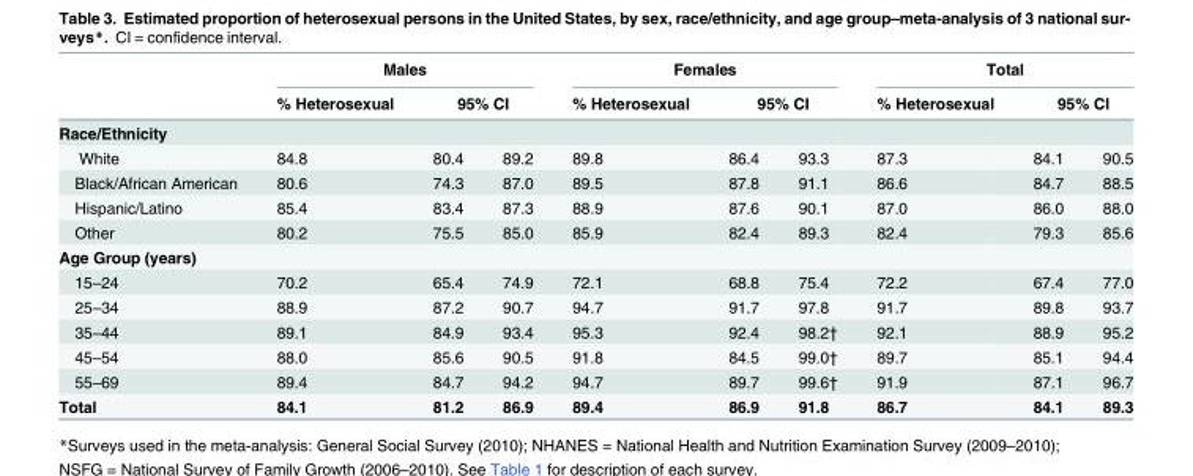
<table><thead><tr><td rowspan="4">Race/Ethnicity White</td><td colspan="3">Males</td><td colspan="3">Females</td><td colspan="3">Total</td></tr><tr><td rowspan="3">% Heterosexual 84.8</td><td rowspan="2" colspan="2">95% CI</td><td rowspan="3">% Heterosexual 89.8</td><td rowspan="2" colspan="2">95% CI</td><td rowspan="3">% Heterosexual 87.3</td><td colspan="2">95% CI</td></tr><tr><td rowspan="2">84.1</td><td rowspan="2">90.5</td></tr><tr><td>80.4</td><td>89.2</td><td>86.4</td><td>93.3</td></tr></thead><tbody><tr><td>Black/African American</td><td>80.6</td><td>74.3</td><td>87.0</td><td>89.5</td><td>87.8</td><td>91.1</td><td>86.6</td><td>84.7</td><td>88.5</td></tr><tr><td>Hispanic/Latino</td><td>85.4</td><td>83.4</td><td>87.3</td><td>88.9</td><td>87.6</td><td>90.1</td><td>87.0</td><td>86.0</td><td>88.0</td></tr><tr><td>Other</td><td>80.2</td><td>75.5</td><td>85.0</td><td>85.9</td><td>82.4</td><td>89.3</td><td>82.4</td><td>79.3</td><td>85.6</td></tr><tr><td colspan="10">Age Group (years)</td></tr><tr><td>15–24</td><td>70.2</td><td>65.4</td><td>74.9</td><td>72.1</td><td>68.8</td><td>75.4</td><td>72.2</td><td>67.4</td><td>77.0</td></tr><tr><td>25–34</td><td>88.9</td><td>87.2</td><td>90.7</td><td>94.7</td><td>91.7</td><td>97.8</td><td>91.7</td><td>89.8</td><td>93.7</td></tr><tr><td>35–44</td><td>89.1</td><td>84.9</td><td>93.4</td><td>95.3</td><td>92.4</td><td>98.2†</td><td>92.1</td><td>88.9</td><td>95.2</td></tr><tr><td>45–54</td><td>88.0</td><td>85.6</td><td>90.5</td><td>91.8</td><td>84.5</td><td>99.0†</td><td>89.7</td><td>85.1</td><td>94.4</td></tr><tr><td>55–69</td><td>89.4</td><td>84.7</td><td>94.2</td><td>94.7</td><td>89.7</td><td>99.6†</td><td>91.9</td><td>87.1</td><td>96.7</td></tr><tr><td>Total</td><td>84.1</td><td>81.2</td><td>86.9</td><td>89.4</td><td>86.9</td><td>91.8</td><td>86.7</td><td>84.1</td><td>89.3</td></tr></tbody></table>